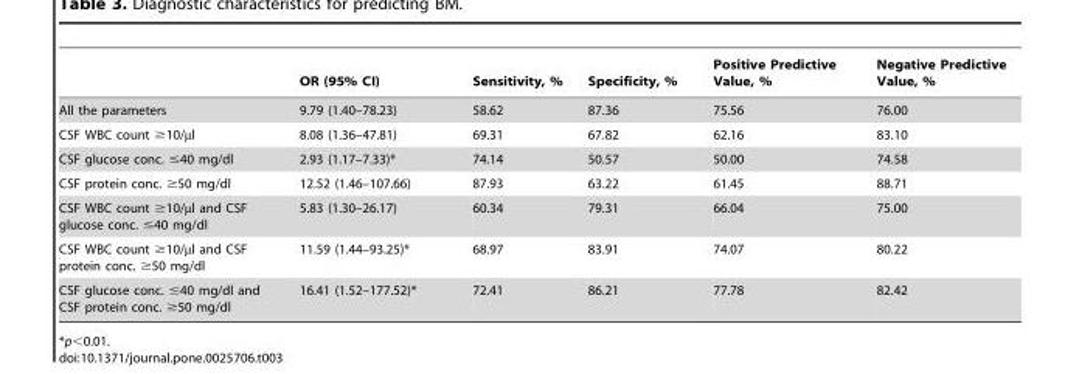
<table><thead><tr><td></td><td>OR (95% CI)</td><td>Sensitivity, %</td><td>Specificity, %</td><td>Positive Predictive Value, %</td><td>Negative Predictive Value, %</td></tr></thead><tbody><tr><td>All the parameters</td><td>9.79 (1.40–78.23)</td><td>58.62</td><td>87.36</td><td>75.56</td><td>76.00</td></tr><tr><td>CSF WBC count ≥10/µl</td><td>8.08 (1.36–47.81)</td><td>69.31</td><td>67.82</td><td>62.16</td><td>83.10</td></tr><tr><td>CSF glucose conc. ≤40 mg/dl</td><td>2.93 (1.17–7.33)*</td><td>74.14</td><td>50.57</td><td>50.00</td><td>74.58</td></tr><tr><td>CSF protein conc. ≥50 mg/dl</td><td>12.52 (1.46–107.66)</td><td>87.93</td><td>63.22</td><td>61.45</td><td>88.71</td></tr><tr><td>CSF WBC count ≥10/µl and CSF glucose conc. ≤40 mg/dl</td><td>5.83 (1.30–26.17)</td><td>60.34</td><td>79.31</td><td>66.04</td><td>75.00</td></tr><tr><td>CSF WBC count ≥10/µl and CSF protein conc. ≥50 mg/dl</td><td>11.59 (1.44–93.25)*</td><td>68.97</td><td>83.91</td><td>74.07</td><td>80.22</td></tr><tr><td>CSF glucose conc. ≤40 mg/dl and CSF protein conc. ≥50 mg/dl</td><td>16.41 (1.52–177.52)*</td><td>72.41</td><td>86.21</td><td>77.78</td><td>82.42</td></tr></tbody></table>